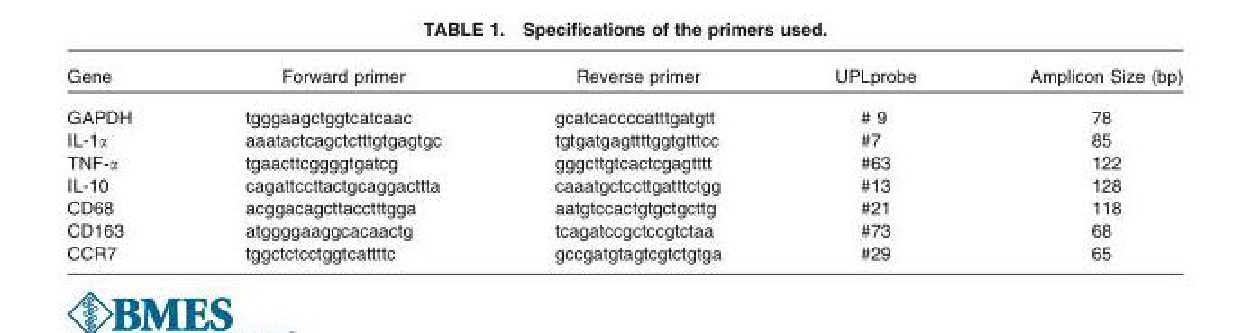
<table><thead><tr><td>Gene</td><td>Forward primer</td><td>Reverse primer</td><td>UPLprobe</td><td>Amplicon Size (bp)</td></tr></thead><tbody><tr><td>GAPDH</td><td>tgggaagctggtcatcaac</td><td>gcatcaccccatttgatgtt</td><td># 9</td><td>78</td></tr><tr><td>IL-1α</td><td>aaatactcagctctttgtgagtgc</td><td>tgtgatgagttttggtgtttcc</td><td>#7</td><td>85</td></tr><tr><td>TNF-α</td><td>tgaacttcggggtgatcg</td><td>gggcttgtcactcgagtttt</td><td>#63</td><td>122</td></tr><tr><td>IL-10</td><td>cagattccttactgcaggacttta</td><td>caaatgctccttgatttctgg</td><td>#13</td><td>128</td></tr><tr><td>CD68</td><td>acggacagcttacctttgga</td><td>aatgtccactgtgctgcttg</td><td>#21</td><td>118</td></tr><tr><td>CD163</td><td>atggggaaggcacaactg</td><td>tcagatccgctccgtctaa</td><td>#73</td><td>68</td></tr><tr><td>CCR7</td><td>tggctctcctggtcattttc</td><td>gccgatgtagtcgtctgtga</td><td>#29</td><td>65</td></tr></tbody></table>